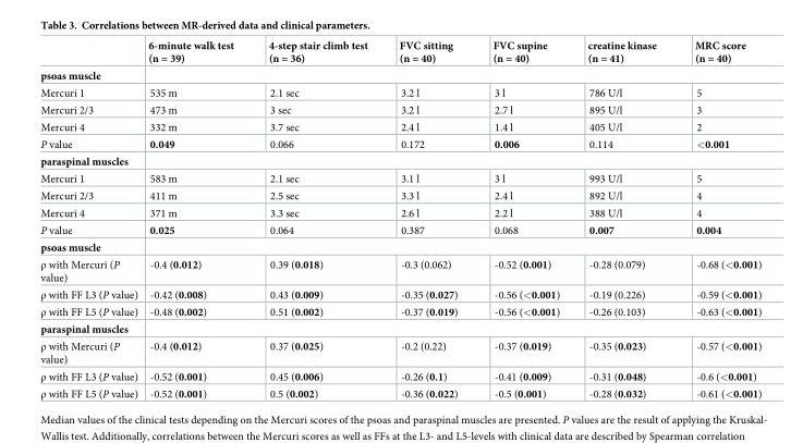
<table><thead><tr><td></td><td>6-minute walk test (n = 39)</td><td>4-step stair climb test (n = 36)</td><td>FVC sitting (n = 40)</td><td>FVC supine (n = 40)</td><td>creatine kinase (n = 41)</td><td>MRC score (n = 40)</td></tr></thead><tbody><tr><td colspan="7">psoas muscle</td></tr><tr><td>Mercuri 1</td><td>535 m</td><td>2.1 sec</td><td>3.2 l</td><td>3 l</td><td>786 U/l</td><td>5</td></tr><tr><td>Mercuri 2/3</td><td>473 m</td><td>3 sec</td><td>3.2 l</td><td>2.7 l</td><td>895 U/l</td><td>3</td></tr><tr><td>Mercuri 4</td><td>332 m</td><td>3.7 sec</td><td>2.4 l</td><td>1.4 l</td><td>405 U/l</td><td>2</td></tr><tr><td>P value</td><td>0.049</td><td>0.066</td><td>0.172</td><td>0.006</td><td>0.114</td><td>&lt;0.001</td></tr><tr><td colspan="7">paraspinal muscles</td></tr><tr><td>Mercuri 1</td><td>583 m</td><td>2.1 sec</td><td>3.1 l</td><td>3 l</td><td>993 U/l</td><td>5</td></tr><tr><td>Mercuri 2/3</td><td>411 m</td><td>2.5 sec</td><td>3.3 l</td><td>2.4 l</td><td>892 U/l</td><td>4</td></tr><tr><td>Mercuri 4</td><td>371 m</td><td>3.3 sec</td><td>2.6 l</td><td>2.2 l</td><td>388 U/l</td><td>4</td></tr><tr><td>P value</td><td>0.025</td><td>0.064</td><td>0.387</td><td>0.068</td><td>0.007</td><td>0.004</td></tr><tr><td colspan="7">psoas muscle</td></tr><tr><td>ρ with Mercuri (P value)</td><td>-0.4 (0.012)</td><td>0.39 (0.018)</td><td>-0.3 (0.062)</td><td>-0.52 (0.001)</td><td>-0.28 (0.079)</td><td>-0.68 (&lt;0.001)</td></tr><tr><td>ρ with FF L3 (P value)</td><td>-0.42 (0.008)</td><td>0.43 (0.009)</td><td>-0.35 (0.027)</td><td>-0.56 (&lt;0.001)</td><td>-0.19 (0.226)</td><td>-0.59 (&lt;0.001)</td></tr><tr><td>ρ with FF L5 (P value)</td><td>-0.48 (0.002)</td><td>0.51 (0.002)</td><td>-0.37 (0.019)</td><td>-0.56 (&lt;0.001)</td><td>-0.26 (0.103)</td><td>-0.63 (&lt;0.001)</td></tr><tr><td colspan="7">paraspinal muscles</td></tr><tr><td>ρ with Mercuri (P value)</td><td>-0.4 (0.012)</td><td>0.37 (0.025)</td><td>-0.2 (0.22)</td><td>-0.37 (0.019)</td><td>-0.35 (0.023)</td><td>-0.57 (&lt;0.001)</td></tr><tr><td>ρ with FF L3 (P value)</td><td>-0.52 (0.001)</td><td>0.45 (0.006)</td><td>-0.26 (0.1)</td><td>-0.41 (0.009)</td><td>-0.31 (0.048)</td><td>-0.6 (&lt;0.001)</td></tr><tr><td>ρ with FF L5 (P value)</td><td>-0.52 (0.001)</td><td>0.5 (0.002)</td><td>-0.36 (0.022)</td><td>-0.5 (0.001)</td><td>-0.28 (0.032)</td><td>-0.61 (&lt;0.001)</td></tr></tbody></table>